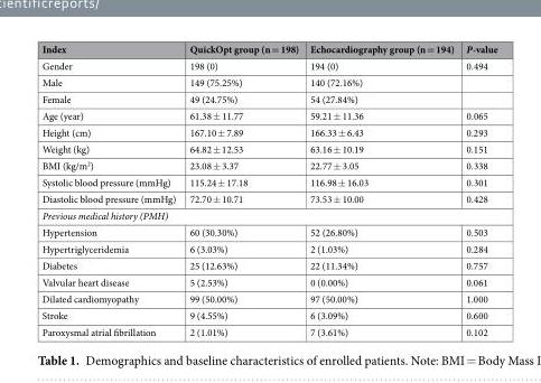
<table><thead><tr><td>Index</td><td>QuickOpt group (n = 198)</td><td>Echocardiography group (n = 194)</td><td>P-value</td></tr></thead><tbody><tr><td>Gender</td><td>198 (0)</td><td>194 (0)</td><td>0.494</td></tr><tr><td>Male</td><td>149 (75.25%)</td><td>140 (72.16%)</td><td></td></tr><tr><td>Female</td><td>49 (24.75%)</td><td>54 (27.84%)</td><td></td></tr><tr><td>Age (year)</td><td>61.38 ± 11.77</td><td>59.21 ± 11.36</td><td>0.065</td></tr><tr><td>Height (cm)</td><td>167.10 ± 7.89</td><td>166.33 ± 6.43</td><td>0.293</td></tr><tr><td>Weight (kg)</td><td>64.82 ± 12.53</td><td>63.16 ± 10.19</td><td>0.151</td></tr><tr><td>BMI (kg/m<sup>2</sup>)</td><td>23.08 ± 3.37</td><td>22.77 ± 3.05</td><td>0.338</td></tr><tr><td>Systolic blood pressure (mmHg)</td><td>115.24 ± 17.18</td><td>116.98 ± 16.03</td><td>0.301</td></tr><tr><td>Diastolic blood pressure (mmHg)</td><td>72.70 ± 10.71</td><td>73.53 ± 10.00</td><td>0.428</td></tr><tr><td colspan="4">Previous medical history (PMH)</td></tr><tr><td>Hypertension</td><td>60 (30.30%)</td><td>52 (26.80%)</td><td>0.503</td></tr><tr><td>Hypertriglyceridemia</td><td>6 (3.03%)</td><td>2 (1.03%)</td><td>0.284</td></tr><tr><td>Diabetes</td><td>25 (12.63%)</td><td>22 (11.34%)</td><td>0.757</td></tr><tr><td>Valvular heart disease</td><td>5 (2.53%)</td><td>0 (0.00%)</td><td>0.061</td></tr><tr><td>Dilated cardiomyopathy</td><td>99 (50.00%)</td><td>97 (50.00%)</td><td>1.000</td></tr><tr><td>Stroke</td><td>9 (4.55%)</td><td>6 (3.09%)</td><td>0.600</td></tr><tr><td>Paroxysmal atrial fibrillation</td><td>2 (1.01%)</td><td>7 (3.61%)</td><td>0.102</td></tr></tbody></table>